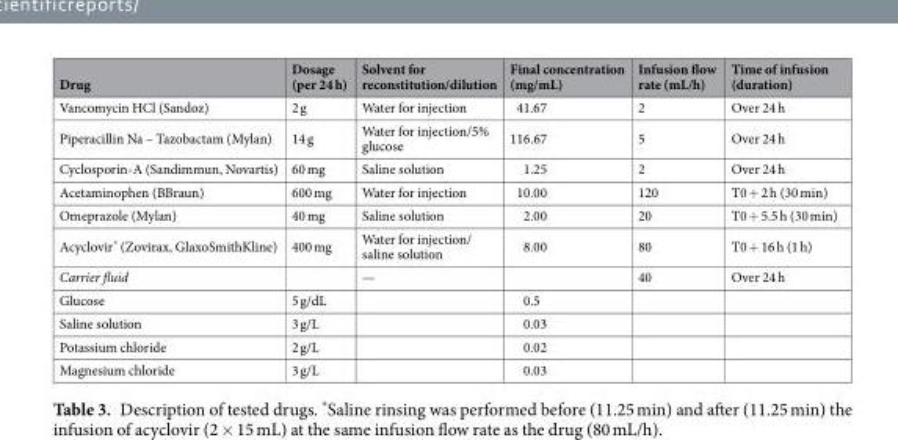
<table><thead><tr><td>Drug</td><td>Dosage (per 24 h)</td><td>Solvent for reconstitution/dilution</td><td>Final concentration (mg/mL)</td><td>Infusion flow rate (mL/h)</td><td>Time of infusion (duration)</td></tr></thead><tbody><tr><td>Vancomycin HCl (Sandoz)</td><td>2 g</td><td>Water for injection</td><td>41.67</td><td>2</td><td>Over 24 h</td></tr><tr><td>Piperacillin Na – Tazobactam (Mylan)</td><td>14 g</td><td>Water for injection/5% glucose</td><td>116.67</td><td>5</td><td>Over 24 h</td></tr><tr><td>Cyclosporin-A (Sandimmun, Novartis)</td><td>60 mg</td><td>Saline solution</td><td>1.25</td><td>2</td><td>Over 24 h</td></tr><tr><td>Acetaminophen (BBraun)</td><td>600 mg</td><td>Water for injection</td><td>10.00</td><td>120</td><td>T0 + 2 h (30 min)</td></tr><tr><td>Omeprazole (Mylan)</td><td>40 mg</td><td>Saline solution</td><td>2.00</td><td>20</td><td>T0 + 5.5 h (30 min)</td></tr><tr><td>Acyclovir* (Zovirax, GlaxoSmithKline)</td><td>400 mg</td><td>Water for injection/ saline solution</td><td>8.00</td><td>80</td><td>T0 + 16 h (1 h)</td></tr><tr><td>Carrier fluid</td><td></td><td>—</td><td></td><td>40</td><td>Over 24 h</td></tr><tr><td>Glucose</td><td>5 g/dL</td><td></td><td>0.5</td><td></td><td></td></tr><tr><td>Saline solution</td><td>3 g/L</td><td></td><td>0.03</td><td></td><td></td></tr><tr><td>Potassium chloride</td><td>2 g/L</td><td></td><td>0.02</td><td></td><td></td></tr><tr><td>Magnesium chloride</td><td>3 g/L</td><td></td><td>0.03</td><td></td><td></td></tr></tbody></table>